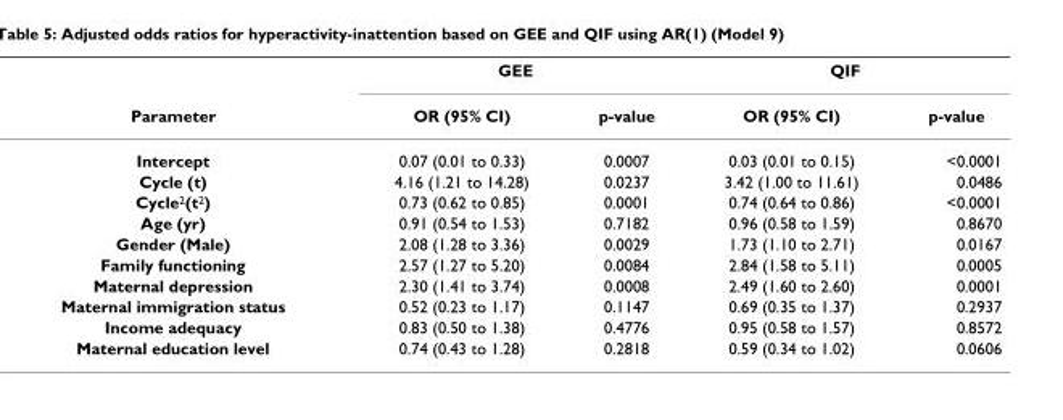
<table><thead><tr><td rowspan="2">Parameter</td><td colspan="2">GEE</td><td colspan="2">QIF</td></tr><tr><td>OR (95% CI)</td><td>p-value</td><td>OR (95% CI)</td><td>p-value</td></tr></thead><tbody><tr><td>Intercept</td><td>0.07 (0.01 to 0.33)</td><td>0.0007</td><td>0.03 (0.01 to 0.15)</td><td>&lt;0.0001</td></tr><tr><td>Cycle (t)</td><td>4.16 (1.21 to 14.28)</td><td>0.0237</td><td>3.42 (1.00 to 11.61)</td><td>0.0486</td></tr><tr><td>Cycle<sup>2</sup>(t<sup>2</sup>)</td><td>0.73 (0.62 to 0.85)</td><td>0.0001</td><td>0.74 (0.64 to 0.86)</td><td>&lt;0.0001</td></tr><tr><td>Age (yr)</td><td>0.91 (0.54 to 1.53)</td><td>0.7182</td><td>0.96 (0.58 to 1.59)</td><td>0.8670</td></tr><tr><td>Gender (Male)</td><td>2.08 (1.28 to 3.36)</td><td>0.0029</td><td>1.73 (1.10 to 2.71)</td><td>0.0167</td></tr><tr><td>Family functioning</td><td>2.57 (1.27 to 5.20)</td><td>0.0084</td><td>2.84 (1.58 to 5.11)</td><td>0.0005</td></tr><tr><td>Maternal depression</td><td>2.30 (1.41 to 3.74)</td><td>0.0008</td><td>2.49 (1.60 to 2.60)</td><td>0.0001</td></tr><tr><td>Maternal immigration status</td><td>0.52 (0.23 to 1.17)</td><td>0.1147</td><td>0.69 (0.35 to 1.37)</td><td>0.2937</td></tr><tr><td>Income adequacy</td><td>0.83 (0.50 to 1.38)</td><td>0.4776</td><td>0.95 (0.58 to 1.57)</td><td>0.8572</td></tr><tr><td>Maternal education level</td><td>0.74 (0.43 to 1.28)</td><td>0.2818</td><td>0.59 (0.34 to 1.02)</td><td>0.0606</td></tr></tbody></table>